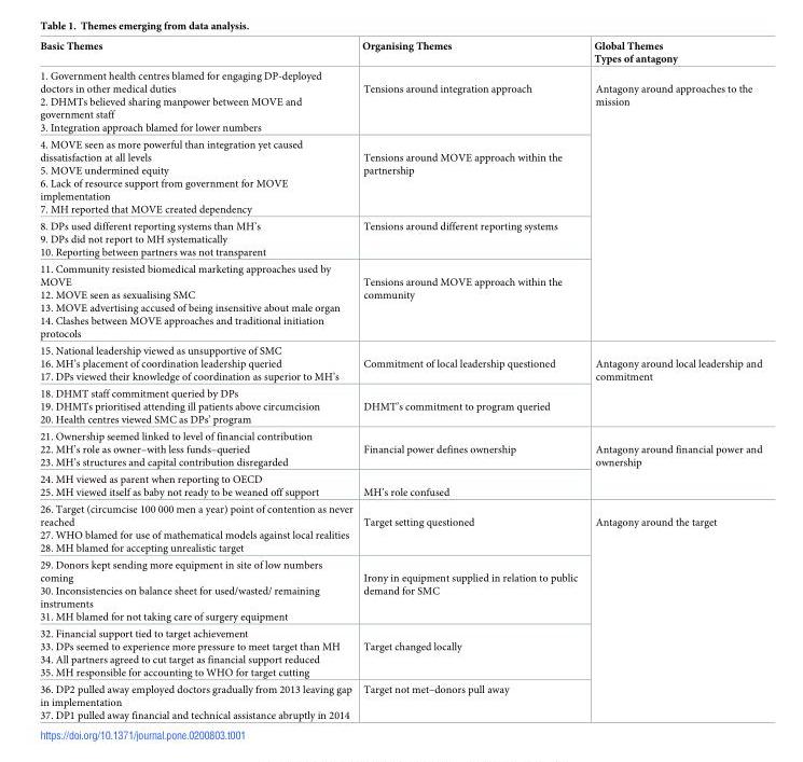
<table><thead><tr><td>Basic Themes</td><td>Organising Themes</td><td>Global Themes Types of antagony</td></tr></thead><tbody><tr><td>1. Government health centres blamed for engaging DP-deployed doctors in other medical duties 2. DHMTs believed sharing manpower between MOVE and government staff 3. Integration approach blamed for lower numbers</td><td>Tensions around integration approach</td><td rowspan="4">Antagony around approaches to the mission</td></tr><tr><td>4. MOVE seen as more powerful than integration yet caused dissatisfaction at all levels 5. MOVE undermined equity 6. Lack of resource support from government for MOVE implementation 7. MH reported that MOVE created dependency</td><td>Tensions around MOVE approach within the partnership</td></tr><tr><td>8. DPs used different reporting systems than MH’s 9. DPs did not report to MH systematically 10. Reporting between partners was not transparent</td><td>Tensions around different reporting systems</td></tr><tr><td>11. Community resisted biomedical marketing approaches used by MOVE 12. MOVE seen as sexualising SMC 13. MOVE advertising accused of being insensitive about male organ 14. Clashes between MOVE approaches and traditional initiation protocols</td><td>Tensions around MOVE approach within the community</td></tr><tr><td>15. National leadership viewed as unsupportive of SMC 16. MH’s placement of coordination leadership queried 17. DPs viewed their knowledge of coordination as superior to MH’s</td><td>Commitment of local leadership questioned</td><td rowspan="2">Antagony around local leadership and commitment</td></tr><tr><td>18. DHMT staff commitment queried by DPs 19. DHMTs prioritised attending ill patients above circumcision 20. Health centres viewed SMC as DPs’ program</td><td>DHMT’s commitment to program queried</td></tr><tr><td>21. Ownership seemed linked to level of financial contribution 22. MH’s role as owner–with less funds–queried 23. MH’s structures and capital contribution disregarded</td><td>Financial power defines ownership</td><td rowspan="2">Antagony around financial power and ownership</td></tr><tr><td>24. MH viewed as parent when reporting to OECD 25. MH viewed itself as baby not ready to be weaned off support</td><td>MH’s role confused</td></tr><tr><td>26. Target (circumcise 100 000 men a year) point of contention as never reached 27. WHO blamed for use of mathematical models against local realities 28. MH blamed for accepting unrealistic target</td><td>Target setting questioned</td><td rowspan="4">Antagony around the target</td></tr><tr><td>29. Donors kept sending more equipment in site of low numbers coming 30. Inconsistencies on balance sheet for used/wasted/ remaining instruments 31. MH blamed for not taking care of surgery equipment</td><td>Irony in equipment supplied in relation to public demand for SMC</td></tr><tr><td>32. Financial support tied to target achievement 33. DPs seemed to experience more pressure to meet target than MH 34. All partners agreed to cut target as financial support reduced 35. MH responsible for accounting to WHO for target cutting</td><td>Target changed locally</td></tr><tr><td>36. DP2 pulled away employed doctors gradually from 2013 leaving gap in implementation 37. DP1 pulled away financial and technical assistance abruptly in 2014</td><td>Target not met–donors pull away</td></tr></tbody></table>